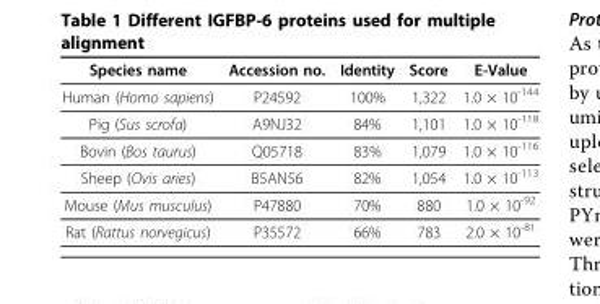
<table><thead><tr><td>Species name</td><td>Accession no.</td><td>Identity</td><td>Score</td><td>E-Value</td></tr></thead><tbody><tr><td>Human (Homo sapiens)</td><td>P24592</td><td>100%</td><td>1,322</td><td>1.0 × 10<sup>-144</sup></td></tr><tr><td>Pig (Sus scrofa)</td><td>A9NJ32</td><td>84%</td><td>1,101</td><td>1.0 × 10<sup>-118</sup></td></tr><tr><td>Bovin (Bos taurus)</td><td>Q05718</td><td>83%</td><td>1,079</td><td>1.0 × 10<sup>-116</sup></td></tr><tr><td>Sheep (Ovis aries)</td><td>B5AN56</td><td>82%</td><td>1,054</td><td>1.0 × 10<sup>-113</sup></td></tr><tr><td>Mouse (Mus musculus)</td><td>P47880</td><td>70%</td><td>880</td><td>1.0 × 10<sup>-92</sup></td></tr><tr><td>Rat (Rattus norvegicus)</td><td>P35572</td><td>66%</td><td>783</td><td>2.0 × 10<sup>-81</sup></td></tr></tbody></table>